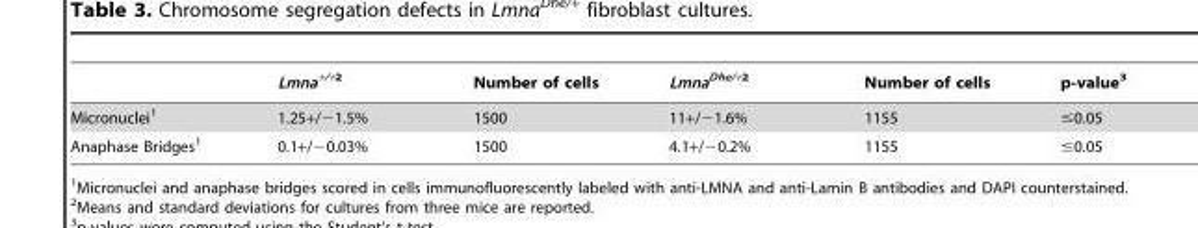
<table><thead><tr><td></td><td>Lmna<sup>+/+</sup>2</td><td>Number of cells</td><td>Lmna<sup>Dhe/+</sup>2</td><td>Number of cells</td><td>p-value<sup>3</sup></td></tr></thead><tbody><tr><td>Micronuclei<sup>1</sup></td><td>1.25+/−1.5%</td><td>1500</td><td>11+/−1.6%</td><td>1155</td><td>≤0.05</td></tr><tr><td>Anaphase Bridges<sup>1</sup></td><td>0.1+/−0.03%</td><td>1500</td><td>4.1+/−0.2%</td><td>1155</td><td>≤0.05</td></tr></tbody></table>